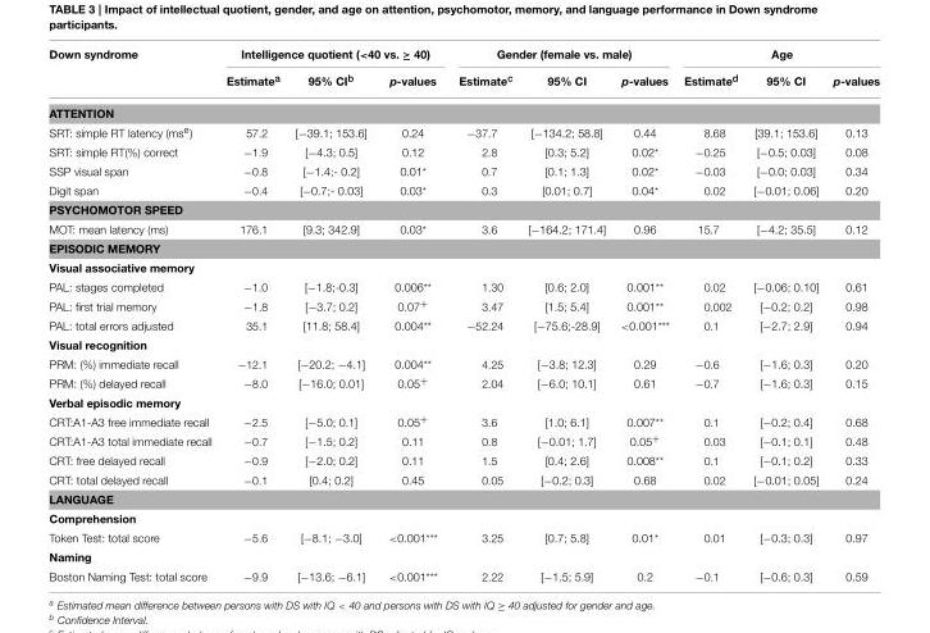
<table><thead><tr><td rowspan="2">Down syndrome</td><td colspan="3">Intelligence quotient (&lt;40 vs. ≥ 40)</td><td colspan="3">Gender (female vs. male)</td><td colspan="3">Age</td></tr><tr><td>Estimate<sup>a</sup></td><td>95% CI<sup>b</sup></td><td>p-values</td><td>Estimate<sup>c</sup></td><td>95% CI</td><td>p-values</td><td>Estimate<sup>d</sup></td><td>95% CI</td><td>p-values</td></tr></thead><tbody><tr><td colspan="10">ATTENTION</td></tr><tr><td>SRT: simple RT latency (ms<sup>e</sup>)</td><td>57.2</td><td>[−39.1; 153.6]</td><td>0.24</td><td>−37.7</td><td>[−134.2; 58.8]</td><td>0.44</td><td>8.68</td><td>[39.1; 153.6]</td><td>0.13</td></tr><tr><td>SRT: simple RT(%) correct</td><td>−1.9</td><td>[−4.3; 0.5]</td><td>0.12</td><td>2.8</td><td>[0.3; 5.2]</td><td>0.02*</td><td>−0.25</td><td>[−0.5; 0.03]</td><td>0.08</td></tr><tr><td>SSP visual span</td><td>−0.8</td><td>[−1.4;- 0.2]</td><td>0.01*</td><td>0.7</td><td>[0.1; 1.3]</td><td>0.02*</td><td>−0.03</td><td>[−0.0; 0.03]</td><td>0.34</td></tr><tr><td>Digit span</td><td>−0.4</td><td>[−0.7;- 0.03]</td><td>0.03*</td><td>0.3</td><td>[0.01; 0.7]</td><td>0.04*</td><td>0.02</td><td>[−0.01; 0.06]</td><td>0.20</td></tr><tr><td colspan="10">PSYCHOMOTOR SPEED</td></tr><tr><td>MOT: mean latency (ms)</td><td>176.1</td><td>[9.3; 342.9]</td><td>0.03*</td><td>3.6</td><td>[−164.2; 171.4]</td><td>0.96</td><td>15.7</td><td>[−4.2; 35.5]</td><td>0.12</td></tr><tr><td colspan="10">EPISODIC MEMORY</td></tr><tr><td colspan="10">Visual associative memory</td></tr><tr><td>PAL: stages completed</td><td>−1.0</td><td>[−1.8;-0.3]</td><td>0.006**</td><td>1.30</td><td>[0.6; 2.0]</td><td>0.001**</td><td>0.02</td><td>[−0.06; 0.10]</td><td>0.61</td></tr><tr><td>PAL: first trial memory</td><td>−1.8</td><td>[−3.7; 0.2]</td><td>0.07<sup>+</sup></td><td>3.47</td><td>[1.5; 5.4]</td><td>0.001**</td><td>0.002</td><td>[−0.2; 0.2]</td><td>0.98</td></tr><tr><td>PAL: total errors adjusted</td><td>35.1</td><td>[11.8; 58.4]</td><td>0.004**</td><td>−52.24</td><td>[−75.6;-28.9]</td><td>&lt;0.001***</td><td>0.1</td><td>[−2.7; 2.9]</td><td>0.94</td></tr><tr><td colspan="10">Visual recognition</td></tr><tr><td>PRM: (%) immediate recall</td><td>−12.1</td><td>[−20.2; −4.1]</td><td>0.004**</td><td>4.25</td><td>[−3.8; 12.3]</td><td>0.29</td><td>−0.6</td><td>[−1.6; 0.3]</td><td>0.20</td></tr><tr><td>PRM: (%) delayed recall</td><td>−8.0</td><td>[−16.0; 0.01]</td><td>0.05<sup>+</sup></td><td>2.04</td><td>[−6.0; 10.1]</td><td>0.61</td><td>−0.7</td><td>[−1.6; 0.3]</td><td>0.15</td></tr><tr><td colspan="10">Verbal episodic memory</td></tr><tr><td>CRT:A1-A3 free immediate recall</td><td>−2.5</td><td>[−5.0; 0.1]</td><td>0.05<sup>+</sup></td><td>3.6</td><td>[1.0; 6.1]</td><td>0.007**</td><td>0.1</td><td>[−0.2; 0.4]</td><td>0.68</td></tr><tr><td>CRT:A1-A3 total immediate recall</td><td>−0.7</td><td>[−1.5; 0.2]</td><td>0.11</td><td>0.8</td><td>[−0.01; 1.7]</td><td>0.05<sup>+</sup></td><td>0.03</td><td>[−0.1; 0.1]</td><td>0.48</td></tr><tr><td>CRT: free delayed recall</td><td>−0.9</td><td>[−2.0; 0.2]</td><td>0.11</td><td>1.5</td><td>[0.4; 2.6]</td><td>0.008**</td><td>0.1</td><td>[−0.1; 0.2]</td><td>0.33</td></tr><tr><td>CRT: total delayed recall</td><td>−0.1</td><td>[0.4; 0.2]</td><td>0.45</td><td>0.05</td><td>[−0.2; 0.3]</td><td>0.68</td><td>0.02</td><td>[−0.01; 0.05]</td><td>0.24</td></tr><tr><td colspan="10">LANGUAGE</td></tr><tr><td colspan="10">Comprehension</td></tr><tr><td>Token Test: total score</td><td>−5.6</td><td>[−8.1; −3.0]</td><td>&lt;0.001***</td><td>3.25</td><td>[0.7; 5.8]</td><td>0.01*</td><td>0.01</td><td>[−0.3; 0.3]</td><td>0.97</td></tr><tr><td colspan="10">Naming</td></tr><tr><td>Boston Naming Test: total score</td><td>−9.9</td><td>[−13.6; −6.1]</td><td>&lt;0.001***</td><td>2.22</td><td>[−1.5; 5.9]</td><td>0.2</td><td>−0.1</td><td>[−0.6; 0.3]</td><td>0.59</td></tr></tbody></table>